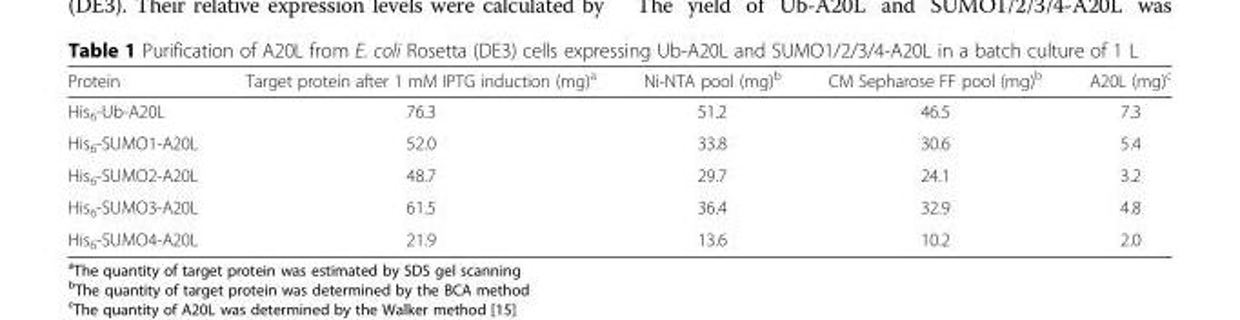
<table><thead><tr><td>Protein</td><td>Target protein after 1 mM IPTG induction (mg)<sup>a</sup></td><td>Ni-NTA pool (mg)<sup>b</sup></td><td>CM Sepharose FF pool (mg)<sup>b</sup></td><td>A20L (mg)<sup>c</sup></td></tr></thead><tbody><tr><td>His<sub>6</sub>-Ub-A20L</td><td>76.3</td><td>51.2</td><td>46.5</td><td>7.3</td></tr><tr><td>His<sub>6</sub>-SUMO1-A20L</td><td>52.0</td><td>33.8</td><td>30.6</td><td>5.4</td></tr><tr><td>His<sub>6</sub>-SUMO2-A20L</td><td>48.7</td><td>29.7</td><td>24.1</td><td>3.2</td></tr><tr><td>His<sub>6</sub>-SUMO3-A20L</td><td>61.5</td><td>36.4</td><td>32.9</td><td>4.8</td></tr><tr><td>His<sub>6</sub>-SUMO4-A20L</td><td>21.9</td><td>13.6</td><td>10.2</td><td>2.0</td></tr></tbody></table>